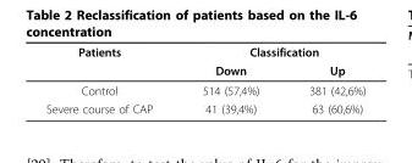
<table><thead><tr><td rowspan="2">Patients</td><td colspan="2">Classification</td></tr><tr><td>Down</td><td>Up</td></tr></thead><tbody><tr><td>Control</td><td>514 (57,4%)</td><td>381 (42,6%)</td></tr><tr><td>Severe course of CAP</td><td>41 (39,4%)</td><td>63 (60,6%)</td></tr></tbody></table>